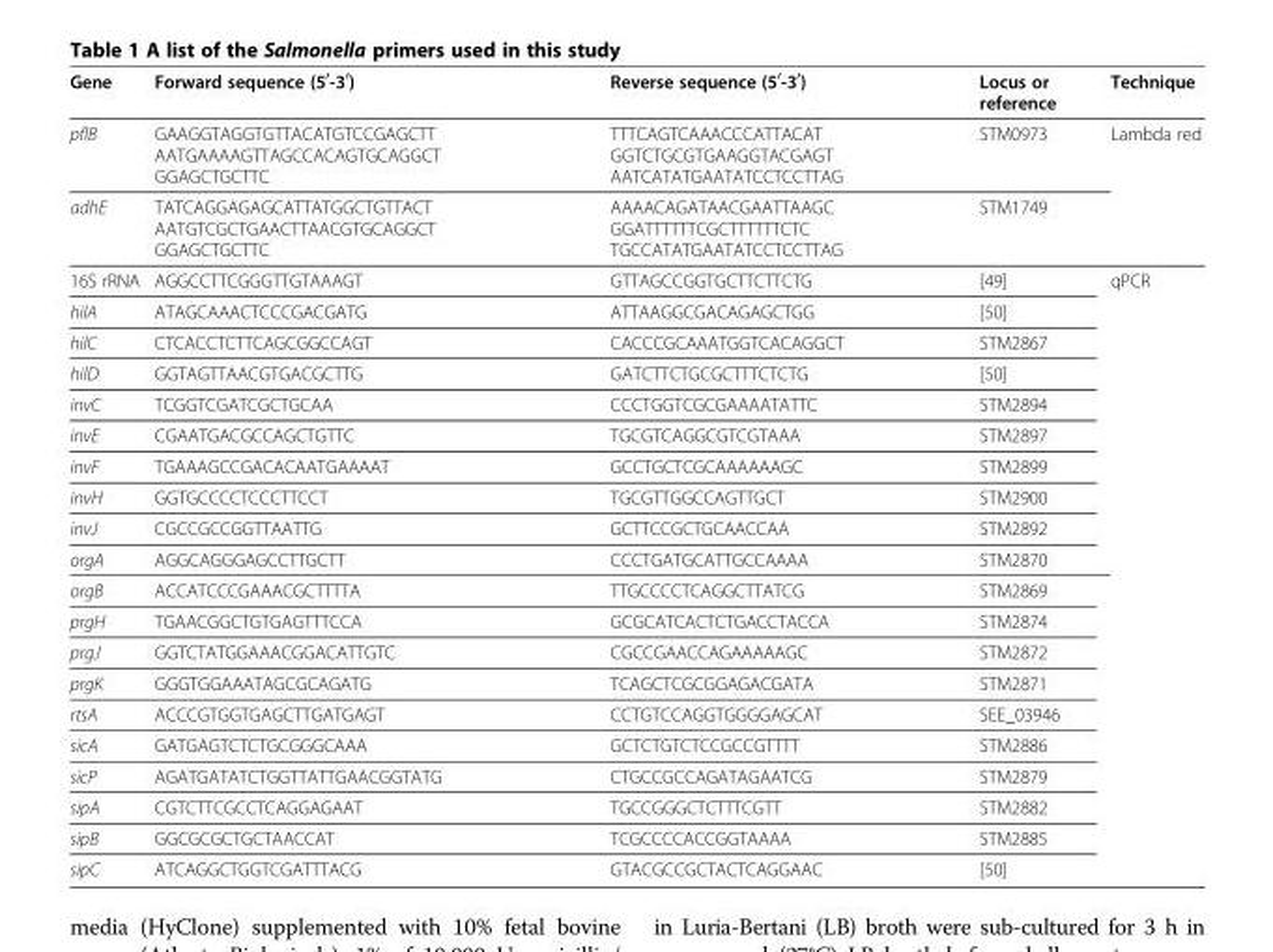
<table><thead><tr><td>Gene</td><td>Forward sequence (5<sup>′</sup>-3<sup>′</sup>)</td><td>Reverse sequence (5<sup>′</sup>-3<sup>′</sup>)</td><td>Locus or reference</td><td>Technique</td></tr></thead><tbody><tr><td>pflB</td><td>GAAGGTAGGTGTTACATGTCCGAGCTT AATGAAAAGTTAGCCACAGTGCAGGCT GGAGCTGCTTC</td><td>TTTCAGTCAAACCCATTACAT GGTCTGCGTGAAGGTACGAGT AATCATATGAATATCCTCCTTAG</td><td>STM0973</td><td rowspan="2">Lambda red</td></tr><tr><td>adhE</td><td>TATCAGGAGAGCATTATGGCTGTTACT AATGTCGCTGAACTTAACGTGCAGGCT GGAGCTGCTTC</td><td>AAAACAGATAACGAATTAAGC GGATTTTTTCGCTTTTTTCTC TGCCATATGAATATCCTCCTTAG</td><td>STM1749</td></tr><tr><td>16S rRNA</td><td>AGGCCTTCGGGTTGTAAAGT</td><td>GTTAGCCGGTGCTTCTTCTG</td><td>[49]</td><td rowspan="20">qPCR</td></tr><tr><td>hilA</td><td>ATAGCAAACTCCCGACGATG</td><td>ATTAAGGCGACAGAGCTGG</td><td>[50]</td></tr><tr><td>hilC</td><td>CTCACCTCTTCAGCGGCCAGT</td><td>CACCCGCAAATGGTCACAGGCT</td><td>STM2867</td></tr><tr><td>hilD</td><td>GGTAGTTAACGTGACGCTTG</td><td>GATCTTCTGCGCTTTCTCTG</td><td>[50]</td></tr><tr><td>invC</td><td>TCGGTCGATCGCTGCAA</td><td>CCCTGGTCGCGAAAATATTC</td><td>STM2894</td></tr><tr><td>invE</td><td>CGAATGACGCCAGCTGTTC</td><td>TGCGTCAGGCGTCGTAAA</td><td>STM2897</td></tr><tr><td>invF</td><td>TGAAAGCCGACACAATGAAAAT</td><td>GCCTGCTCGCAAAAAAGC</td><td>STM2899</td></tr><tr><td>invH</td><td>GGTGCCCCTCCCTTCCT</td><td>TGCGTTGGCCAGTTGCT</td><td>STM2900</td></tr><tr><td>invJ</td><td>CGCCGCCGGTTAATTG</td><td>GCTTCCGCTGCAACCAA</td><td>STM2892</td></tr><tr><td>orgA</td><td>AGGCAGGGAGCCTTGCTT</td><td>CCCTGATGCATTGCCAAAA</td><td>STM2870</td></tr><tr><td>orgB</td><td>ACCATCCCGAAACGCTTTTA</td><td>TTGCCCCTCAGGCTTATCG</td><td>STM2869</td></tr><tr><td>prgH</td><td>TGAACGGCTGTGAGTTTCCA</td><td>GCGCATCACTCTGACCTACCA</td><td>STM2874</td></tr><tr><td>prgJ</td><td>GGTCTATGGAAACGGACATTGTC</td><td>CGCCGAACCAGAAAAAGC</td><td>STM2872</td></tr><tr><td>prgK</td><td>GGGTGGAAATAGCGCAGATG</td><td>TCAGCTCGCGGAGACGATA</td><td>STM2871</td></tr><tr><td>rtsA</td><td>ACCCGTGGTGAGCTTGATGAGT</td><td>CCTGTCCAGGTGGGGAGCAT</td><td>SEE_03946</td></tr><tr><td>sicA</td><td>GATGAGTCTCTGCGGGCAAA</td><td>GCTCTGTCTCCGCCGTTTT</td><td>STM2886</td></tr><tr><td>sicP</td><td>AGATGATATCTGGTTATTGAACGGTATG</td><td>CTGCCGCCAGATAGAATCG</td><td>STM2879</td></tr><tr><td>sipA</td><td>CGTCTTCGCCTCAGGAGAAT</td><td>TGCCGGGCTCTTTCGTT</td><td>STM2882</td></tr><tr><td>sipB</td><td>GGCGCGCTGCTAACCAT</td><td>TCGCCCCACCGGTAAAA</td><td>STM2885</td></tr><tr><td>sipC</td><td>ATCAGGCTGGTCGATTTACG</td><td>GTACGCCGCTACTCAGGAAC</td><td>[50]</td></tr></tbody></table>